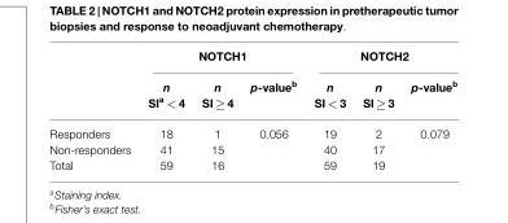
<table><thead><tr><td rowspan="2"></td><td colspan="3">NOTCH1</td><td colspan="3">NOTCH2</td></tr><tr><td>n SI<sup>a</sup> &lt; 4</td><td>n SI ≥ 4</td><td>p-value<sup>b</sup></td><td>n SI &lt; 3</td><td>n SI ≥ 3</td><td>p-value<sup>b</sup></td></tr></thead><tbody><tr><td>Responders</td><td>18</td><td>1</td><td>0.056</td><td>19</td><td>2</td><td>0.079</td></tr><tr><td>Non-responders</td><td>41</td><td>15</td><td></td><td>40</td><td>17</td><td></td></tr><tr><td>Total</td><td>59</td><td>16</td><td></td><td>59</td><td>19</td><td></td></tr></tbody></table>